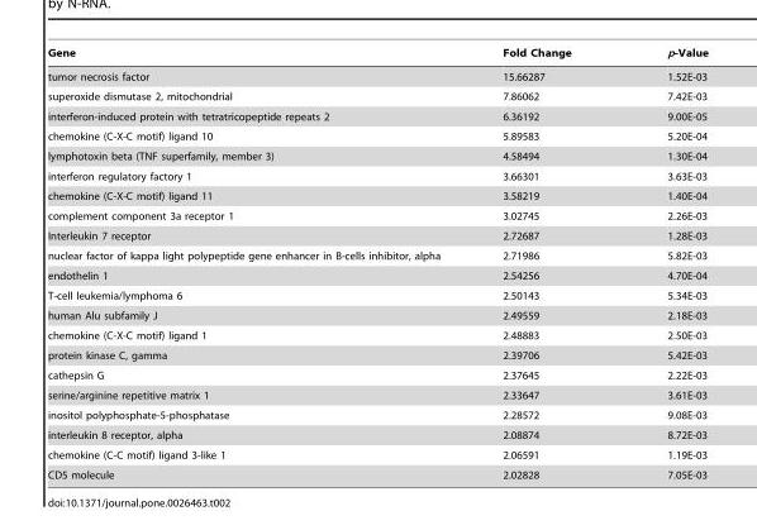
<table><thead><tr><td>Gene</td><td>Fold Change</td><td>p-Value</td></tr></thead><tbody><tr><td>tumor necrosis factor</td><td>15.66287</td><td>1.52E-03</td></tr><tr><td>superoxide dismutase 2, mitochondrial</td><td>7.86062</td><td>7.42E-03</td></tr><tr><td>interferon-induced protein with tetratricopeptide repeats 2</td><td>6.36192</td><td>9.00E-05</td></tr><tr><td>chemokine (C-X-C motif) ligand 10</td><td>5.89583</td><td>5.20E-04</td></tr><tr><td>lymphotoxin beta (TNF superfamily, member 3)</td><td>4.58494</td><td>1.30E-04</td></tr><tr><td>interferon regulatory factory 1</td><td>3.66301</td><td>3.63E-03</td></tr><tr><td>chemokine (C-X-C motif) ligand 11</td><td>3.58219</td><td>1.40E-04</td></tr><tr><td>complement component 3a receptor 1</td><td>3.02745</td><td>2.26E-03</td></tr><tr><td>Interleukin 7 receptor</td><td>2.72687</td><td>1.28E-03</td></tr><tr><td>nuclear factor of kappa light polypeptide gene enhancer in B-cells inhibitor, alpha</td><td>2.71986</td><td>5.82E-03</td></tr><tr><td>endothelin 1</td><td>2.54256</td><td>4.70E-04</td></tr><tr><td>T-cell leukemia/lymphoma 6</td><td>2.50143</td><td>5.34E-03</td></tr><tr><td>human Alu subfamily J</td><td>2.49559</td><td>2.18E-03</td></tr><tr><td>chemokine (C-X-C motif) ligand 1</td><td>2.48883</td><td>2.50E-03</td></tr><tr><td>protein kinase C, gamma</td><td>2.39706</td><td>5.42E-03</td></tr><tr><td>cathepsin G</td><td>2.37645</td><td>2.22E-03</td></tr><tr><td>serine/arginine repetitive matrix 1</td><td>2.33647</td><td>3.61E-03</td></tr><tr><td>inositol polyphosphate-5-phosphatase</td><td>2.28572</td><td>9.08E-03</td></tr><tr><td>interleukin 8 receptor, alpha</td><td>2.08874</td><td>8.72E-03</td></tr><tr><td>chemokine (C-C motif) ligand 3-like 1</td><td>2.06591</td><td>1.19E-03</td></tr><tr><td>CD5 molecule</td><td>2.02828</td><td>7.05E-03</td></tr></tbody></table>